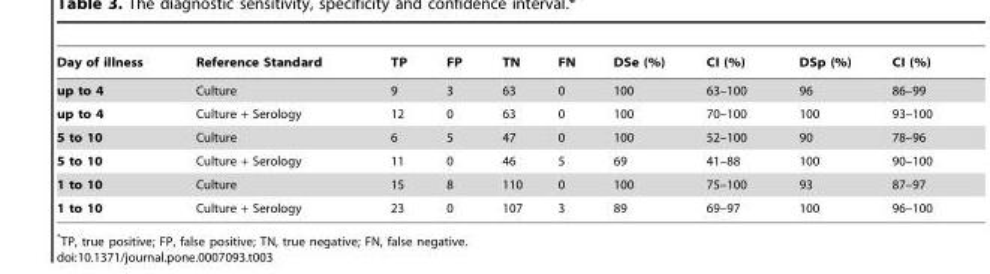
<table><thead><tr><td>Day of illness</td><td>Reference Standard</td><td>TP</td><td>FP</td><td>TN</td><td>FN</td><td>DSe (%)</td><td>CI (%)</td><td>DSp (%)</td><td>CI (%)</td></tr></thead><tbody><tr><td>up to 4</td><td>Culture</td><td>9</td><td>3</td><td>63</td><td>0</td><td>100</td><td>63–100</td><td>96</td><td>86–99</td></tr><tr><td>up to 4</td><td>Culture + Serology</td><td>12</td><td>0</td><td>63</td><td>0</td><td>100</td><td>70–100</td><td>100</td><td>93–100</td></tr><tr><td>5 to 10</td><td>Culture</td><td>6</td><td>5</td><td>47</td><td>0</td><td>100</td><td>52–100</td><td>90</td><td>78–96</td></tr><tr><td>5 to 10</td><td>Culture + Serology</td><td>11</td><td>0</td><td>46</td><td>5</td><td>69</td><td>41–88</td><td>100</td><td>90–100</td></tr><tr><td>1 to 10</td><td>Culture</td><td>15</td><td>8</td><td>110</td><td>0</td><td>100</td><td>75–100</td><td>93</td><td>87–97</td></tr><tr><td>1 to 10</td><td>Culture + Serology</td><td>23</td><td>0</td><td>107</td><td>3</td><td>89</td><td>69–97</td><td>100</td><td>96–100</td></tr></tbody></table>